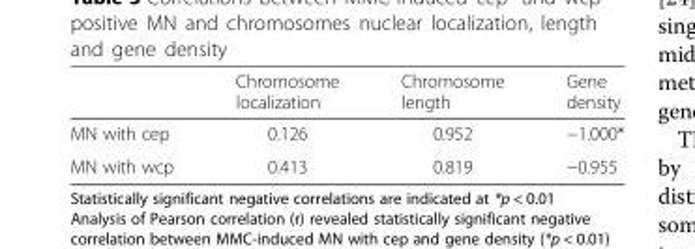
<table><thead><tr><td></td><td>Chromosome localization</td><td>Chromosome length</td><td>Gene density</td></tr></thead><tbody><tr><td>MN with cep</td><td>0.126</td><td>0.952</td><td>−1.000*</td></tr><tr><td>MN with wcp</td><td>0.413</td><td>0.819</td><td>−0.955</td></tr></tbody></table>